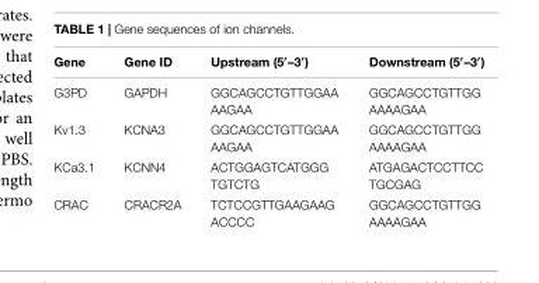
<table><thead><tr><td>Gene</td><td>Gene ID</td><td>Upstream (5′–3′)</td><td>Downstream (5′–3′)</td></tr></thead><tbody><tr><td>G3PD</td><td>GAPDH</td><td>GGCAGCCTGTTGGAA AAGAA</td><td>GGCAGCCTGTTGG AAAAGAA</td></tr><tr><td>Kv1.3</td><td>KCNA3</td><td>GGCAGCCTGTTGGAA AAGAA</td><td>GGCAGCCTGTTGG AAAAGAA</td></tr><tr><td>KCa3.1</td><td>KCNN4</td><td>ACTGGAGTCATGGG TGTCTG</td><td>ATGAGACTCCTTCC TGCGAG</td></tr><tr><td>CRAC</td><td>CRACR2A</td><td>TCTCCGTTGAAGAAG ACCCC</td><td>GGCAGCCTGTTGG AAAAGAA</td></tr></tbody></table>